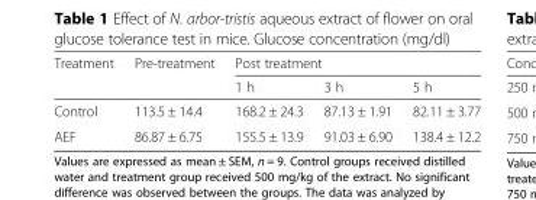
<table><thead><tr><td rowspan="2">Treatment</td><td rowspan="2">Pre-treatment</td><td colspan="3">Post treatment</td></tr><tr><td>1 h</td><td>3 h</td><td>5 h</td></tr></thead><tbody><tr><td>Control</td><td>113.5 ± 14.4</td><td>168.2 ± 24.3</td><td>87.13 ± 1.91</td><td>82.11 ± 3.77</td></tr><tr><td>AEF</td><td>86.87 ± 6.75</td><td>155.5 ± 13.9</td><td>91.03 ± 6.90</td><td>138.4 ± 12.2</td></tr></tbody></table>